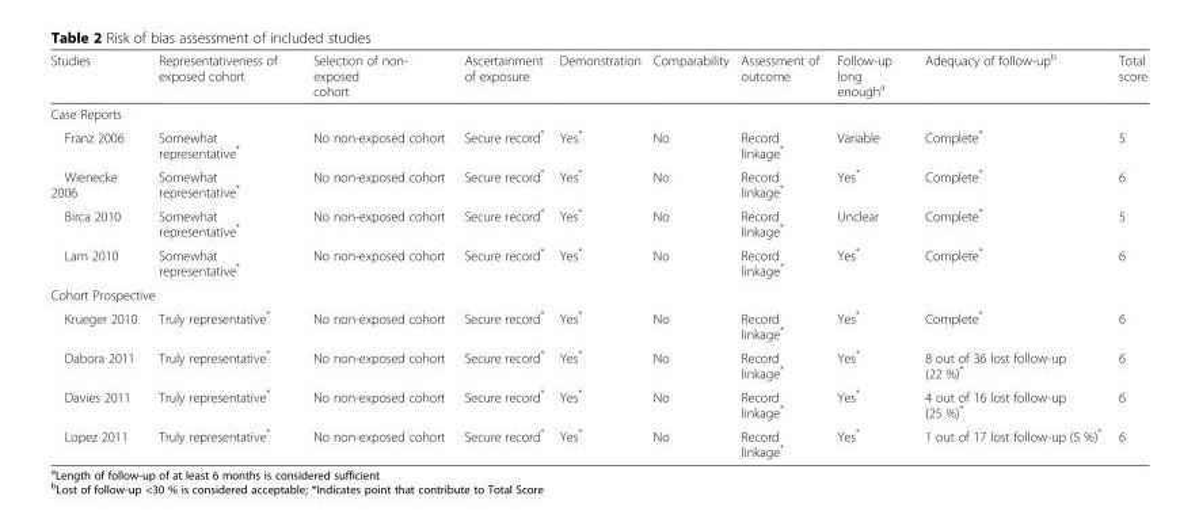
<table><thead><tr><td>Studies</td><td>Representativeness of exposed cohort</td><td>Selection of non- exposed cohort</td><td>Ascertainment of exposure</td><td>Demonstration</td><td>Comparability</td><td>Assessment of outcome</td><td>Follow-up long enough<sup>a</sup></td><td>Adequacy of follow-up<sup>b</sup></td><td>Total score</td></tr></thead><tbody><tr><td colspan="10">Case Reports</td></tr><tr><td>Franz 2006</td><td>Somewhat representative*</td><td>No non-exposed cohort</td><td>Secure record*</td><td>Yes*</td><td>No</td><td>Record linkage*</td><td>Variable</td><td>Complete*</td><td>5</td></tr><tr><td>Wienecke 2006</td><td>Somewhat representative*</td><td>No non-exposed cohort</td><td>Secure record*</td><td>Yes*</td><td>No</td><td>Record linkage*</td><td>Yes*</td><td>Complete*</td><td>6</td></tr><tr><td>Birca 2010</td><td>Somewhat representative*</td><td>No non-exposed cohort</td><td>Secure record*</td><td>Yes*</td><td>No</td><td>Record linkage*</td><td>Unclear</td><td>Complete*</td><td>5</td></tr><tr><td>Lam 2010</td><td>Somewhat representative*</td><td>No non-exposed cohort</td><td>Secure record*</td><td>Yes*</td><td>No</td><td>Record linkage*</td><td>Yes*</td><td>Complete*</td><td>6</td></tr><tr><td colspan="10">Cohort Prospective</td></tr><tr><td>Krueger 2010</td><td>Truly representative*</td><td>No non-exposed cohort</td><td>Secure record*</td><td>Yes*</td><td>No</td><td>Record linkage*</td><td>Yes*</td><td>Complete*</td><td>6</td></tr><tr><td>Dabora 2011</td><td>Truly representative*</td><td>No non-exposed cohort</td><td>Secure record*</td><td>Yes*</td><td>No</td><td>Record linkage*</td><td>Yes*</td><td>8 out of 36 lost follow-up (22 %)*</td><td>6</td></tr><tr><td>Davies 2011</td><td>Truly representative*</td><td>No non-exposed cohort</td><td>Secure record*</td><td>Yes*</td><td>No</td><td>Record linkage*</td><td>Yes*</td><td>4 out of 16 lost follow-up (25 %)*</td><td>6</td></tr><tr><td>Lopez 2011</td><td>Truly representative*</td><td>No non-exposed cohort</td><td>Secure record*</td><td>Yes*</td><td>No</td><td>Record linkage*</td><td>Yes*</td><td>1 out of 17 lost follow-up (5 %)*</td><td>6</td></tr></tbody></table>